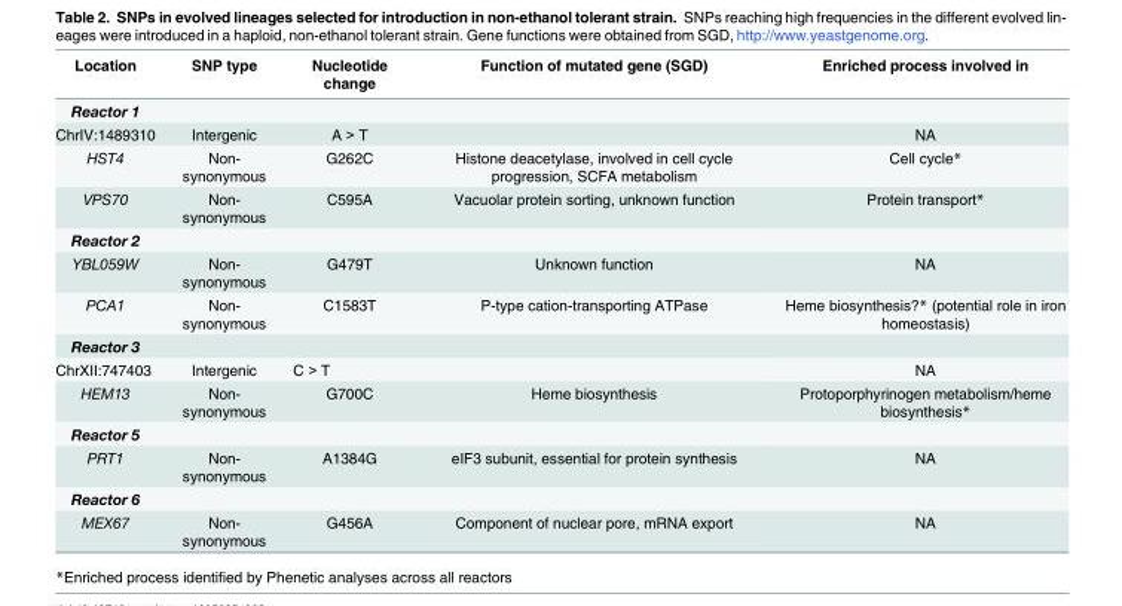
<table><thead><tr><td>Location</td><td>SNP type</td><td>Nucleotide change</td><td>Function of mutated gene (SGD)</td><td>Enriched process involved in</td></tr></thead><tbody><tr><td colspan="5">Reactor 1</td></tr><tr><td>ChrIV:1489310</td><td>Intergenic</td><td>A &gt; T</td><td></td><td>NA</td></tr><tr><td>HST4</td><td>Non- synonymous</td><td>G262C</td><td>Histone deacetylase, involved in cell cycle progression, SCFA metabolism</td><td>Cell cycle*</td></tr><tr><td>VPS70</td><td>Non- synonymous</td><td>C595A</td><td>Vacuolar protein sorting, unknown function</td><td>Protein transport*</td></tr><tr><td colspan="5">Reactor 2</td></tr><tr><td>YBL059W</td><td>Non- synonymous</td><td>G479T</td><td>Unknown function</td><td>NA</td></tr><tr><td>PCA1</td><td>Non- synonymous</td><td>C1583T</td><td>P-type cation-transporting ATPase</td><td>Heme biosynthesis?* (potential role in iron homeostasis)</td></tr><tr><td colspan="5">Reactor 3</td></tr><tr><td>ChrXII:747403</td><td>Intergenic</td><td>C &gt; T</td><td></td><td>NA</td></tr><tr><td>HEM13</td><td>Non- synonymous</td><td>G700C</td><td>Heme biosynthesis</td><td>Protoporphyrinogen metabolism/heme biosynthesis*</td></tr><tr><td colspan="5">Reactor 5</td></tr><tr><td>PRT1</td><td>Non- synonymous</td><td>A1384G</td><td>eIF3 subunit, essential for protein synthesis</td><td>NA</td></tr><tr><td colspan="5">Reactor 6</td></tr><tr><td>MEX67</td><td>Non- synonymous</td><td>G456A</td><td>Component of nuclear pore, mRNA export</td><td>NA</td></tr></tbody></table>